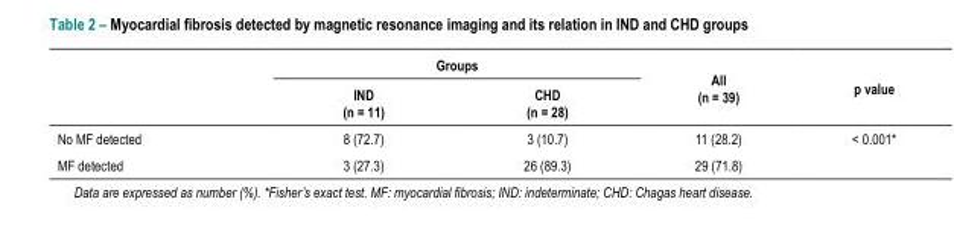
<table><thead><tr><td rowspan="2"></td><td colspan="2">Groups</td><td rowspan="2">All (n = 39)</td><td rowspan="2">p value</td></tr><tr><td>IND (n = 11)</td><td>CHD (n = 28)</td></tr></thead><tbody><tr><td>No MF detected</td><td>8 (72.7)</td><td>3 (10.7)</td><td>11 (28.2)</td><td>&lt; 0.001*</td></tr><tr><td>MF detected</td><td>3 (27.3)</td><td>26 (89.3)</td><td>29 (71.8)</td><td></td></tr></tbody></table>